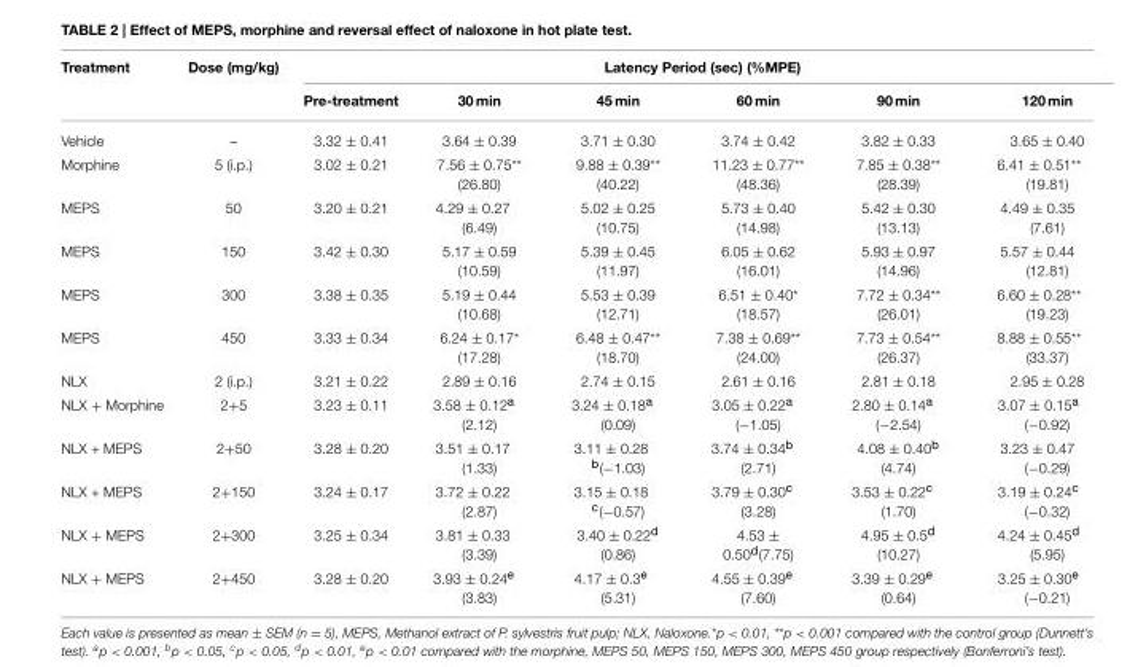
<table><thead><tr><td rowspan="2">Treatment</td><td rowspan="2">Dose (mg/kg)</td><td colspan="6">Latency Period (sec) (%MPE)</td></tr><tr><td>Pre-treatment</td><td>30 min</td><td>45 min</td><td>60 min</td><td>90 min</td><td>120 min</td></tr></thead><tbody><tr><td>Vehicle</td><td>–</td><td>3.32 ± 0.41</td><td>3.64 ± 0.39</td><td>3.71 ± 0.30</td><td>3.74 ± 0.42</td><td>3.82 ± 0.33</td><td>3.65 ± 0.40</td></tr><tr><td>Morphine</td><td>5 (i.p.)</td><td>3.02 ± 0.21</td><td>7.56 ± 0.75** (26.80)</td><td>9.88 ± 0.39** (40.22)</td><td>11.23 ± 0.77** (48.36)</td><td>7.85 ± 0.38** (28.39)</td><td>6.41 ± 0.51** (19.81)</td></tr><tr><td>MEPS</td><td>50</td><td>3.20 ± 0.21</td><td>4.29 ± 0.27 (6.49)</td><td>5.02 ± 0.25 (10.75)</td><td>5.73 ± 0.40 (14.98)</td><td>5.42 ± 0.30 (13.13)</td><td>4.49 ± 0.35 (7.61)</td></tr><tr><td>MEPS</td><td>150</td><td>3.42 ± 0.30</td><td>5.17 ± 0.59 (10.59)</td><td>5.39 ± 0.45 (11.97)</td><td>6.05 ± 0.62 (16.01)</td><td>5.93 ± 0.97 (14.96)</td><td>5.57 ± 0.44 (12.81)</td></tr><tr><td>MEPS</td><td>300</td><td>3.38 ± 0.35</td><td>5.19 ± 0.44 (10.68)</td><td>5.53 ± 0.39 (12.71)</td><td>6.51 ± 0.40* (18.57)</td><td>7.72 ± 0.34** (26.01)</td><td>6.60 ± 0.28** (19.23)</td></tr><tr><td>MEPS</td><td>450</td><td>3.33 ± 0.34</td><td>6.24 ± 0.17* (17.28)</td><td>6.48 ± 0.47** (18.70)</td><td>7.38 ± 0.69** (24.00)</td><td>7.73 ± 0.54** (26.37)</td><td>8.88 ± 0.55** (33.37)</td></tr><tr><td>NLX</td><td>2 (i.p.)</td><td>3.21 ± 0.22</td><td>2.89 ± 0.16</td><td>2.74 ± 0.15</td><td>2.61 ± 0.16</td><td>2.81 ± 0.18</td><td>2.95 ± 0.28</td></tr><tr><td>NLX + Morphine</td><td>2+5</td><td>3.23 ± 0.11</td><td>3.58 ± 0.12<sup>a</sup> (2.12)</td><td>3.24 ± 0.18<sup>a</sup> (0.09)</td><td>3.05 ± 0.22<sup>a</sup> (−1.05)</td><td>2.80 ± 0.14<sup>a</sup> (−2.54)</td><td>3.07 ± 0.15<sup>a</sup> (−0.92)</td></tr><tr><td>NLX + MEPS</td><td>2+50</td><td>3.28 ± 0.20</td><td>3.51 ± 0.17 (1.33)</td><td>3.11 ± 0.28 <sup>b</sup>(−1.03)</td><td>3.74 ± 0.34<sup>b</sup> (2.71)</td><td>4.08 ± 0.40<sup>b</sup> (4.74)</td><td>3.23 ± 0.47 (−0.29)</td></tr><tr><td>NLX + MEPS</td><td>2+150</td><td>3.24 ± 0.17</td><td>3.72 ± 0.22 (2.87)</td><td>3.15 ± 0.18 <sup>c</sup>(−0.57)</td><td>3.79 ± 0.30<sup>c</sup> (3.28)</td><td>3.53 ± 0.22<sup>c</sup> (1.70)</td><td>3.19 ± 0.24<sup>c</sup> (−0.32)</td></tr><tr><td>NLX + MEPS</td><td>2+300</td><td>3.25 ± 0.34</td><td>3.81 ± 0.33 (3.39)</td><td>3.40 ± 0.22<sup>d</sup> (0.86)</td><td>4.53 ± 0.50<sup>d</sup>(7.75)</td><td>4.95 ± 0.5<sup>d</sup> (10.27)</td><td>4.24 ± 0.45<sup>d</sup> (5.95)</td></tr><tr><td>NLX + MEPS</td><td>2+450</td><td>3.28 ± 0.20</td><td>3.93 ± 0.24<sup>e</sup> (3.83)</td><td>4.17 ± 0.3<sup>e</sup> (5.31)</td><td>4.55 ± 0.39<sup>e</sup> (7.60)</td><td>3.39 ± 0.29<sup>e</sup> (0.64)</td><td>3.25 ± 0.30<sup>e</sup> (−0.21)</td></tr></tbody></table>